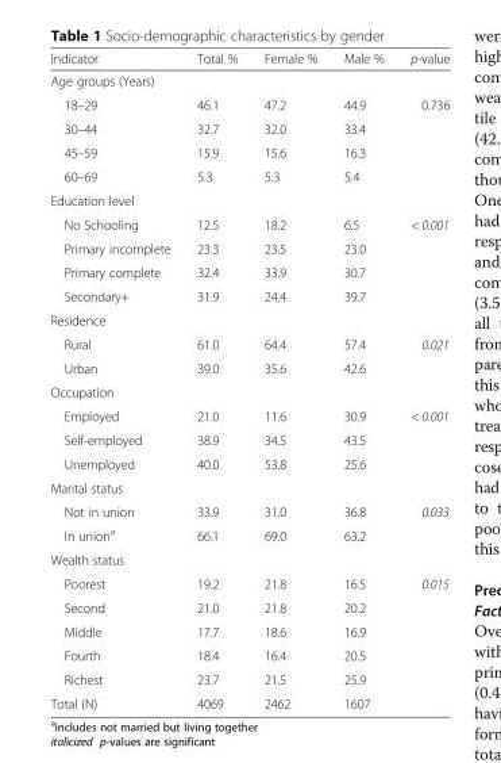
<table><thead><tr><td>Indicator</td><td>Total %</td><td>Female %</td><td>Male %</td><td>p-value</td></tr></thead><tbody><tr><td colspan="5">Age groups (Years)</td></tr><tr><td>18–29</td><td>46.1</td><td>47.2</td><td>44.9</td><td>0.736</td></tr><tr><td>30–44</td><td>32.7</td><td>32.0</td><td>33.4</td><td></td></tr><tr><td>45–59</td><td>15.9</td><td>15.6</td><td>16.3</td><td></td></tr><tr><td>60–69</td><td>5.3</td><td>5.3</td><td>5.4</td><td></td></tr><tr><td colspan="5">Education level</td></tr><tr><td>No Schooling</td><td>12.5</td><td>18.2</td><td>6.5</td><td>&lt; 0.001</td></tr><tr><td>Primary incomplete</td><td>23.3</td><td>23.5</td><td>23.0</td><td></td></tr><tr><td>Primary complete</td><td>32.4</td><td>33.9</td><td>30.7</td><td></td></tr><tr><td>Secondary+</td><td>31.9</td><td>24.4</td><td>39.7</td><td></td></tr><tr><td colspan="5">Residence</td></tr><tr><td>Rural</td><td>61.0</td><td>64.4</td><td>57.4</td><td>0.021</td></tr><tr><td>Urban</td><td>39.0</td><td>35.6</td><td>42.6</td><td></td></tr><tr><td colspan="5">Occupation</td></tr><tr><td>Employed</td><td>21.0</td><td>11.6</td><td>30.9</td><td>&lt; 0.001</td></tr><tr><td>Self-employed</td><td>38.9</td><td>34.5</td><td>43.5</td><td></td></tr><tr><td>Unemployed</td><td>40.0</td><td>53.8</td><td>25.6</td><td></td></tr><tr><td colspan="5">Marital status</td></tr><tr><td>Not in union</td><td>33.9</td><td>31.0</td><td>36.8</td><td>0.033</td></tr><tr><td>In union<sup>a</sup></td><td>66.1</td><td>69.0</td><td>63.2</td><td></td></tr><tr><td colspan="5">Wealth status</td></tr><tr><td>Poorest</td><td>19.2</td><td>21.8</td><td>16.5</td><td>0.015</td></tr><tr><td>Second</td><td>21.0</td><td>21.8</td><td>20.2</td><td></td></tr><tr><td>Middle</td><td>17.7</td><td>18.6</td><td>16.9</td><td></td></tr><tr><td>Fourth</td><td>18.4</td><td>16.4</td><td>20.5</td><td></td></tr><tr><td>Richest</td><td>23.7</td><td>21.5</td><td>25.9</td><td></td></tr><tr><td>Total (N)</td><td>4069</td><td>2462</td><td>1607</td><td></td></tr></tbody></table>